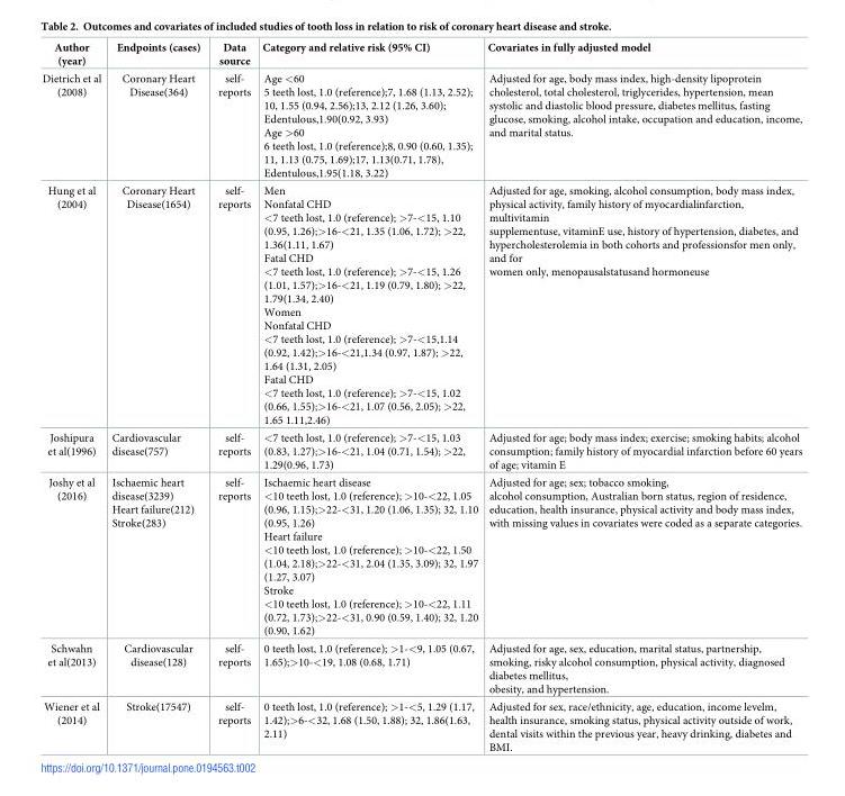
<table><thead><tr><td>Author (year)</td><td>Endpoints (cases)</td><td>Data source</td><td>Category and relative risk (95% CI)</td><td>Covariates in fully adjusted model</td></tr></thead><tbody><tr><td>Dietrich et al (2008)</td><td>Coronary Heart Disease(364)</td><td>self- reports</td><td>Age &lt;60 5 teeth lost, 1.0 (reference);7, 1.68 (1.13, 2.52); 10, 1.55 (0.94, 2.56);13, 2.12 (1.26, 3.60); Edentulous,1.90(0.92, 3.93) Age &gt;60 6 teeth lost, 1.0 (reference);8, 0.90 (0.60, 1.35); 11, 1.13 (0.75, 1.69);17, 1.13(0.71, 1.78), Edentulous,1.95(1.18, 3.22)</td><td>Adjusted for age, body mass index, high-density lipoprotein cholesterol, total cholesterol, triglycerides, hypertension, mean systolic and diastolic blood pressure, diabetes mellitus, fasting glucose, smoking, alcohol intake, occupation and education, income, and marital status.</td></tr><tr><td>Hung et al (2004)</td><td>Coronary Heart Disease(1654)</td><td>self- reports</td><td>Men Nonfatal CHD &lt;7 teeth lost, 1.0 (reference); &gt;7-&lt;15, 1.10 (0.95, 1.26);&gt;16-&lt;21, 1.35 (1.06, 1.72); &gt;22, 1.36(1.11, 1.67) Fatal CHD &lt;7 teeth lost, 1.0 (reference); &gt;7-&lt;15, 1.26 (1.01, 1.57);&gt;16-&lt;21, 1.19 (0.79, 1.80); &gt;22, 1.79(1.34, 2.40) Women Nonfatal CHD &lt;7 teeth lost, 1.0 (reference); &gt;7-&lt;15,1.14 (0.92, 1.42);&gt;16-&lt;21,1.34 (0.97, 1.87); &gt;22, 1.64 (1.31, 2.05) Fatal CHD &lt;7 teeth lost, 1.0 (reference); &gt;7-&lt;15, 1.02 (0.66, 1.55);&gt;16-&lt;21, 1.07 (0.56, 2.05); &gt;22, 1.65 1.11,2.46)</td><td>Adjusted for age, smoking, alcohol consumption, body mass index, physical activity, family history of myocardialinfarction, multivitamin supplementuse, vitaminE use, history of hypertension, diabetes, and hypercholesterolemia in both cohorts and professionsfor men only, and for women only, menopausalstatusand hormoneuse</td></tr><tr><td>Joshipura et al(1996)</td><td>Cardiovascular disease(757)</td><td>self- reports</td><td>&lt;7 teeth lost, 1.0 (reference); &gt;7-&lt;15, 1.03 (0.83, 1.27);&gt;16-&lt;21, 1.04 (0.71, 1.54); &gt;22, 1.29(0.96, 1.73)</td><td>Adjusted for age; body mass index; exercise; smoking habits; alcohol consumption; family history of myocardial infarction before 60 years of age; vitamin E</td></tr><tr><td>Joshy et al (2016)</td><td>Ischaemic heart disease(3239) Heart failure(212) Stroke(283)</td><td>self- reports</td><td>Ischaemic heart disease &lt;10 teeth lost, 1.0 (reference); &gt;10-&lt;22, 1.05 (0.96, 1.15);&gt;22-&lt;31, 1.20 (1.06, 1.35); 32, 1.10 (0.95, 1.26) Heart failure &lt;10 teeth lost, 1.0 (reference); &gt;10-&lt;22, 1.50 (1.04, 2.18);&gt;22-&lt;31, 2.04 (1.35, 3.09); 32, 1.97 (1.27, 3.07) Stroke &lt;10 teeth lost, 1.0 (reference); &gt;10-&lt;22, 1.11 (0.72, 1.73);&gt;22-&lt;31, 0.90 (0.59, 1.40); 32, 1.20 (0.90, 1.62)</td><td>Adjusted for age; sex; tobacco smoking, alcohol consumption, Australian born status, region of residence, education, health insurance, physical activity and body mass index, with missing values in covariates were coded as a separate categories.</td></tr><tr><td>Schwahn et al(2013)</td><td>Cardiovascular disease(128)</td><td>self- reports</td><td>0 teeth lost, 1.0 (reference); &gt;1-&lt;9, 1.05 (0.67, 1.65);&gt;10-&lt;19, 1.08 (0.68, 1.71)</td><td>Adjusted for age, sex, education, marital status, partnership, smoking, risky alcohol consumption, physical activity, diagnosed diabetes mellitus, obesity, and hypertension.</td></tr><tr><td>Wiener et al (2014)</td><td>Stroke(17547)</td><td>self- reports</td><td>0 teeth lost, 1.0 (reference); &gt;1-&lt;5, 1.29 (1.17, 1.42);&gt;6-&lt;32, 1.68 (1.50, 1.88); 32, 1.86(1.63, 2.11)</td><td>Adjusted for sex, race/ethnicity, age, education, income levelm, health insurance, smoking status, physical activity outside of work, dental visits within the previous year, heavy drinking, diabetes and BMI.</td></tr></tbody></table>